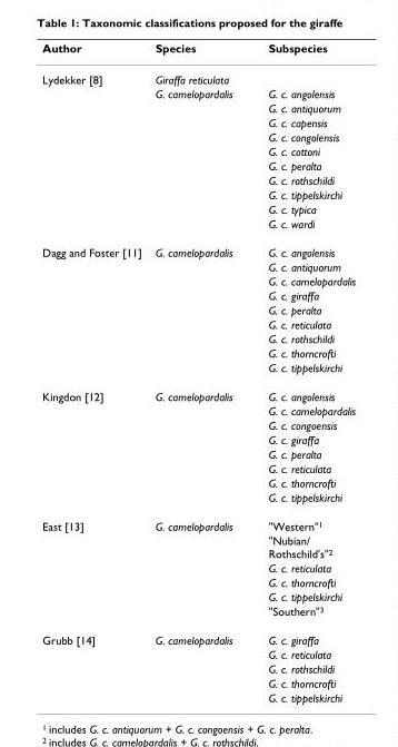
<table><thead><tr><td>Author</td><td>Species</td><td>Subspecies</td></tr></thead><tbody><tr><td rowspan="11">Lydekker [8]</td><td>Giraffa reticulata</td><td></td></tr><tr><td>G. camelopardalis</td><td>G. c. angolensis</td></tr><tr><td></td><td>G. c. antiquorum</td></tr><tr><td></td><td>G. c. capensis</td></tr><tr><td></td><td>G. c. congolensis</td></tr><tr><td></td><td>G. c. cottoni</td></tr><tr><td></td><td>G. c. peralta</td></tr><tr><td></td><td>G. c. rothschildi</td></tr><tr><td></td><td>G. c. tippelskirchi</td></tr><tr><td></td><td>G. c. typica</td></tr><tr><td></td><td>G. c. wardi</td></tr><tr><td rowspan="9">Dagg and Foster [11]</td><td>G. camelopardalis</td><td>G. c. angolensis</td></tr><tr><td></td><td>G. c. antiquorum</td></tr><tr><td></td><td>G. c. camelopardalis</td></tr><tr><td></td><td>G. c. giraffa</td></tr><tr><td></td><td>G. c. peralta</td></tr><tr><td></td><td>G. c. reticulata</td></tr><tr><td></td><td>G. c. rothschildi</td></tr><tr><td></td><td>G. c. thorncrofti</td></tr><tr><td></td><td>G. c. tippelskirchi</td></tr><tr><td rowspan="8">Kingdon [12]</td><td>G. camelopardalis</td><td>G. c. angolensis</td></tr><tr><td></td><td>G. c. camelopardalis</td></tr><tr><td></td><td>G. c. congoensis</td></tr><tr><td></td><td>G. c. giraffa</td></tr><tr><td></td><td>G. c. peralta</td></tr><tr><td></td><td>G. c. reticulata</td></tr><tr><td></td><td>G. c. thorncrofti</td></tr><tr><td></td><td>G. c. tippelskirchi</td></tr><tr><td rowspan="6">East [13]</td><td>G. camelopardalis</td><td>&quot;Western&quot;<sup>1</sup></td></tr><tr><td></td><td>&quot;Nubian/ Rothschild&#x27;s&quot;<sup>2</sup></td></tr><tr><td></td><td>G. c. reticulata</td></tr><tr><td></td><td>G. c. thorncrofti</td></tr><tr><td></td><td>G. c. tippelskirchi</td></tr><tr><td></td><td>&quot;Southern&quot;<sup>3</sup></td></tr><tr><td rowspan="5">Grubb [14]</td><td>G. camelopardalis</td><td>G. c. giraffa</td></tr><tr><td></td><td>G. c. reticulata</td></tr><tr><td></td><td>G. c. rothschildi</td></tr><tr><td></td><td>G. c. thorncrofti</td></tr><tr><td></td><td>G. c. tippelskirchi</td></tr></tbody></table>